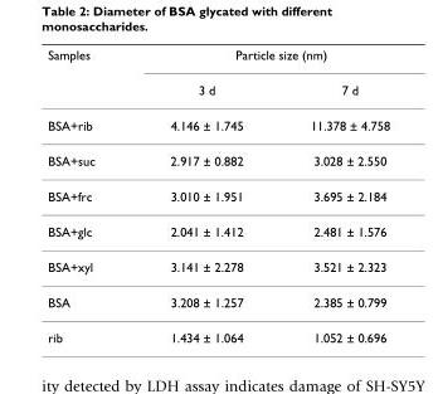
<table><thead><tr><td rowspan="2">Samples</td><td colspan="2">Particle size (nm)</td></tr><tr><td>3 d</td><td>7 d</td></tr></thead><tbody><tr><td>BSA+rib</td><td>4.146 ± 1.745</td><td>11.378 ± 4.758</td></tr><tr><td>BSA+suc</td><td>2.917 ± 0.882</td><td>3.028 ± 2.550</td></tr><tr><td>BSA+frc</td><td>3.010 ± 1.951</td><td>3.695 ± 2.184</td></tr><tr><td>BSA+glc</td><td>2.041 ± 1.412</td><td>2.481 ± 1.576</td></tr><tr><td>BSA+xyl</td><td>3.141 ± 2.278</td><td>3.521 ± 2.323</td></tr><tr><td>BSA</td><td>3.208 ± 1.257</td><td>2.385 ± 0.799</td></tr><tr><td>rib</td><td>1.434 ± 1.064</td><td>1.052 ± 0.696</td></tr></tbody></table>